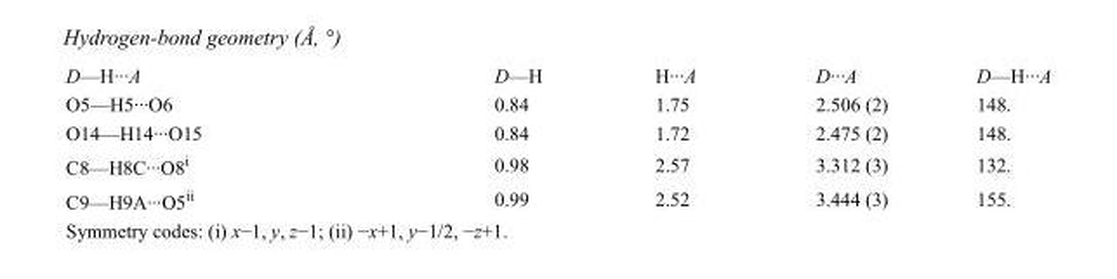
<table><tbody><tr><td>D—H···A</td><td>D—H</td><td>H···A</td><td>D···A</td><td>D—H···A</td></tr><tr><td>O5—H5···O6</td><td>0.84</td><td>1.75</td><td>2.506 (2)</td><td>148.</td></tr><tr><td>O14—H14···O15</td><td>0.84</td><td>1.72</td><td>2.475 (2)</td><td>148.</td></tr><tr><td>C8—H8C···O8<sup>i</sup></td><td>0.98</td><td>2.57</td><td>3.312 (3)</td><td>132.</td></tr><tr><td>C9—H9A···O5<sup>ii</sup></td><td>0.99</td><td>2.52</td><td>3.444 (3)</td><td>155.</td></tr></tbody></table>